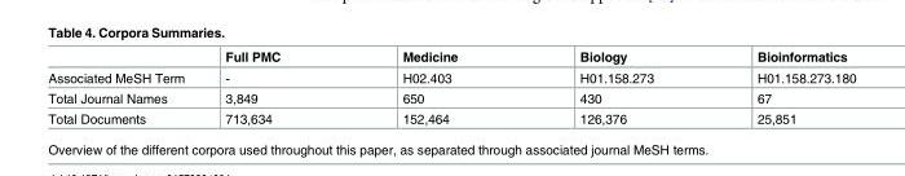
<table><thead><tr><td></td><td>Full PMC</td><td>Medicine</td><td>Biology</td><td>Bioinformatics</td></tr></thead><tbody><tr><td>Associated MeSH Term</td><td>-</td><td>H02.403</td><td>H01.158.273</td><td>H01.158.273.180</td></tr><tr><td>Total Journal Names</td><td>3,849</td><td>650</td><td>430</td><td>67</td></tr><tr><td>Total Documents</td><td>713,634</td><td>152,464</td><td>126,376</td><td>25,851</td></tr></tbody></table>